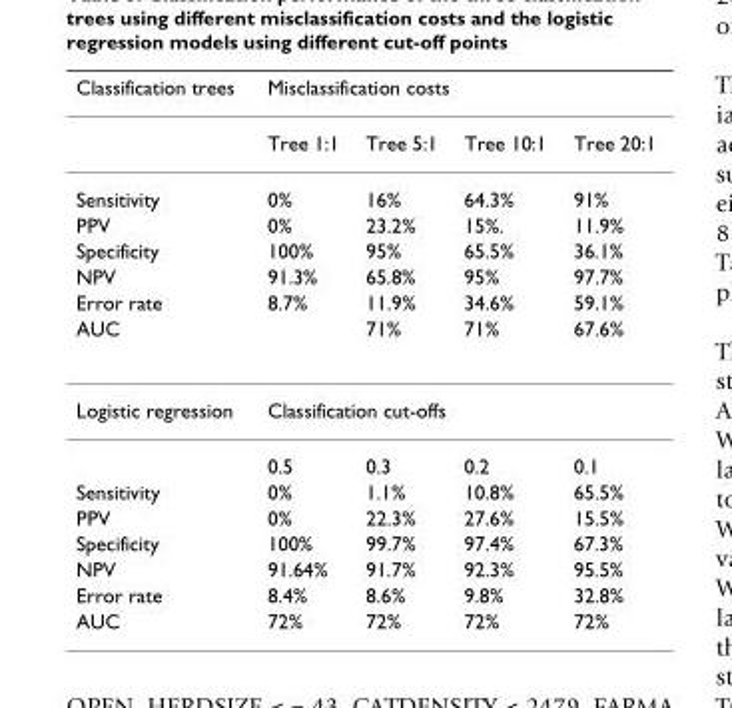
<table><thead><tr><td rowspan="2">Classification trees</td><td colspan="4">Misclassification costs</td></tr><tr><td>Tree 1:1</td><td>Tree 5:1</td><td>Tree 10:1</td><td>Tree 20:1</td></tr></thead><tbody><tr><td>Sensitivity</td><td>0%</td><td>16%</td><td>64.3%</td><td>91%</td></tr><tr><td>PPV</td><td>0%</td><td>23.2%</td><td>15%.</td><td>11.9%</td></tr><tr><td>Specificity</td><td>100%</td><td>95%</td><td>65.5%</td><td>36.1%</td></tr><tr><td>NPV</td><td>91.3%</td><td>65.8%</td><td>95%</td><td>97.7%</td></tr><tr><td>Error rate</td><td>8.7%</td><td>11.9%</td><td>34.6%</td><td>59.1%</td></tr><tr><td>AUC</td><td></td><td>71%</td><td>71%</td><td>67.6%</td></tr><tr><td rowspan="2">Logistic regression</td><td colspan="4">Classification cut-offs</td></tr><tr><td>0.5</td><td>0.3</td><td>0.2</td><td>0.1</td></tr><tr><td>Sensitivity</td><td>0%</td><td>1.1%</td><td>10.8%</td><td>65.5%</td></tr><tr><td>PPV</td><td>0%</td><td>22.3%</td><td>27.6%</td><td>15.5%</td></tr><tr><td>Specificity</td><td>100%</td><td>99.7%</td><td>97.4%</td><td>67.3%</td></tr><tr><td>NPV</td><td>91.64%</td><td>91.7%</td><td>92.3%</td><td>95.5%</td></tr><tr><td>Error rate</td><td>8.4%</td><td>8.6%</td><td>9.8%</td><td>32.8%</td></tr><tr><td>AUC</td><td>72%</td><td>72%</td><td>72%</td><td>72%</td></tr></tbody></table>